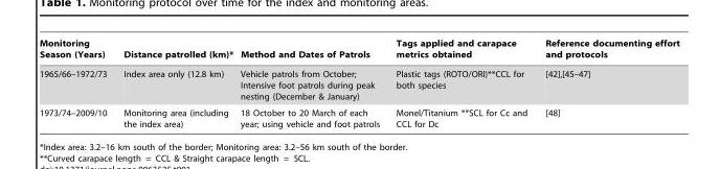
<table><thead><tr><td>Monitoring Season (Years)</td><td>Distance patrolled (km)*</td><td>Method and Dates of Patrols</td><td>Tags applied and carapace metrics obtained</td><td>Reference documenting effort and protocols</td></tr></thead><tbody><tr><td>1965/66–1972/73</td><td>Index area only (12.8 km)</td><td>Vehicle patrols from October; Intensive foot patrols during peak nesting (December &amp; January)</td><td>Plastic tags (ROTO/ORI)**CCL for both species</td><td>[42],[45–47]</td></tr><tr><td>1973/74–2009/10</td><td>Monitoring area (including the index area)</td><td>18 October to 20 March of each year; using vehicle and foot patrols</td><td>Monel/Titanium **SCL for Cc and CCL for Dc</td><td>[48]</td></tr></tbody></table>